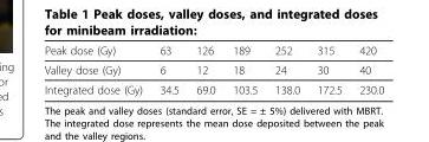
<table><thead><tr><td>Peak dose (Gy)</td><td>63</td><td>126</td><td>189</td><td>252</td><td>315</td><td>420</td></tr></thead><tbody><tr><td>Valley dose (Gy)</td><td>6</td><td>12</td><td>18</td><td>24</td><td>30</td><td>40</td></tr><tr><td>Integrated dose (Gy)</td><td>34.5</td><td>69.0</td><td>103.5</td><td>138.0</td><td>172.5</td><td>230.0</td></tr></tbody></table>